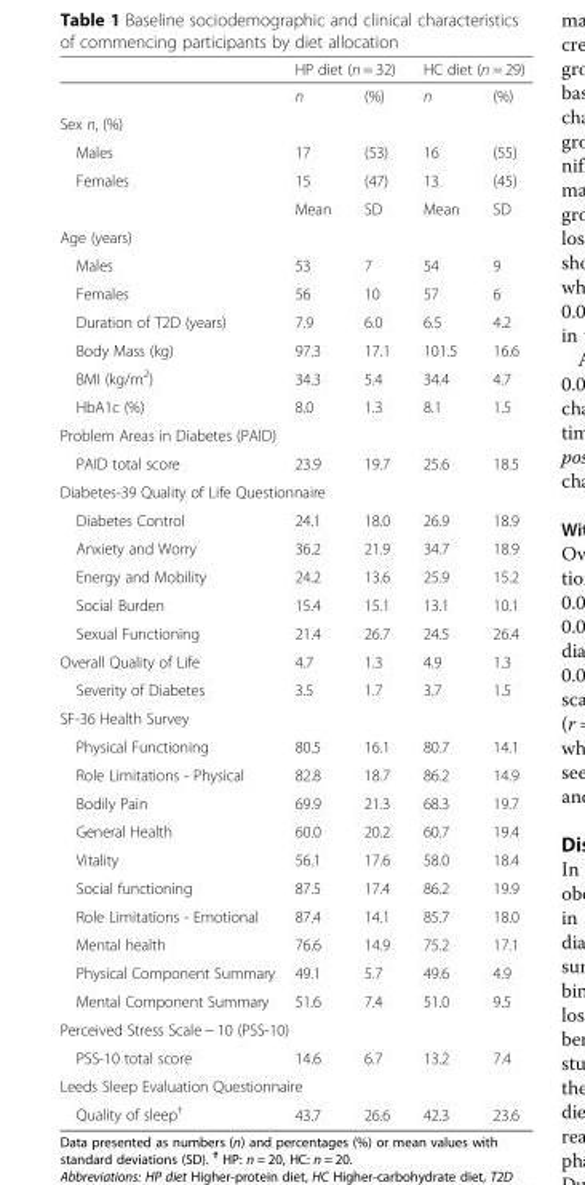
<table><thead><tr><td rowspan="2"></td><td colspan="2">HP diet (n = 32)</td><td colspan="2">HC diet (n = 29)</td></tr><tr><td>n</td><td>(%)</td><td>n</td><td>(%)</td></tr></thead><tbody><tr><td colspan="5">Sex n, (%)</td></tr><tr><td>Males</td><td>17</td><td>(53)</td><td>16</td><td>(55)</td></tr><tr><td rowspan="2">Females</td><td>15</td><td>(47)</td><td>13</td><td>(45)</td></tr><tr><td>Mean</td><td>SD</td><td>Mean</td><td>SD</td></tr><tr><td colspan="5">Age (years)</td></tr><tr><td>Males</td><td>53</td><td>7</td><td>54</td><td>9</td></tr><tr><td>Females</td><td>56</td><td>10</td><td>57</td><td>6</td></tr><tr><td>Duration of T2D (years)</td><td>7.9</td><td>6.0</td><td>6.5</td><td>4.2</td></tr><tr><td>Body Mass (kg)</td><td>97.3</td><td>17.1</td><td>101.5</td><td>16.6</td></tr><tr><td>BMI (kg/m<sup>2</sup>)</td><td>34.3</td><td>5.4</td><td>34.4</td><td>4.7</td></tr><tr><td>HbA1c (%)</td><td>8.0</td><td>1.3</td><td>8.1</td><td>1.5</td></tr><tr><td colspan="5">Problem Areas in Diabetes (PAID)</td></tr><tr><td>PAID total score</td><td>23.9</td><td>19.7</td><td>25.6</td><td>18.5</td></tr><tr><td colspan="5">Diabetes-39 Quality of Life Questionnaire</td></tr><tr><td>Diabetes Control</td><td>24.1</td><td>18.0</td><td>26.9</td><td>18.9</td></tr><tr><td>Anxiety and Worry</td><td>36.2</td><td>21.9</td><td>34.7</td><td>18.9</td></tr><tr><td>Energy and Mobility</td><td>24.2</td><td>13.6</td><td>25.9</td><td>15.2</td></tr><tr><td>Social Burden</td><td>15.4</td><td>15.1</td><td>13.1</td><td>10.1</td></tr><tr><td>Sexual Functioning</td><td>21.4</td><td>26.7</td><td>24.5</td><td>26.4</td></tr><tr><td>Overall Quality of Life</td><td>4.7</td><td>1.3</td><td>4.9</td><td>1.3</td></tr><tr><td>Severity of Diabetes</td><td>3.5</td><td>1.7</td><td>3.7</td><td>1.5</td></tr><tr><td colspan="5">SF-36 Health Survey</td></tr><tr><td>Physical Functioning</td><td>80.5</td><td>16.1</td><td>80.7</td><td>14.1</td></tr><tr><td>Role Limitations - Physical</td><td>82.8</td><td>18.7</td><td>86.2</td><td>14.9</td></tr><tr><td>Bodily Pain</td><td>69.9</td><td>21.3</td><td>68.3</td><td>19.7</td></tr><tr><td>General Health</td><td>60.0</td><td>20.2</td><td>60.7</td><td>19.4</td></tr><tr><td>Vitality</td><td>56.1</td><td>17.6</td><td>58.0</td><td>18.4</td></tr><tr><td>Social functioning</td><td>87.5</td><td>17.4</td><td>86.2</td><td>19.9</td></tr><tr><td>Role Limitations - Emotional</td><td>87.4</td><td>14.1</td><td>85.7</td><td>18.0</td></tr><tr><td>Mental health</td><td>76.6</td><td>14.9</td><td>75.2</td><td>17.1</td></tr><tr><td>Physical Component Summary</td><td>49.1</td><td>5.7</td><td>49.6</td><td>4.9</td></tr><tr><td>Mental Component Summary</td><td>51.6</td><td>7.4</td><td>51.0</td><td>9.5</td></tr><tr><td colspan="5">Perceived Stress Scale − 10 (PSS-10)</td></tr><tr><td>PSS-10 total score</td><td>14.6</td><td>6.7</td><td>13.2</td><td>7.4</td></tr><tr><td colspan="5">Leeds Sleep Evaluation Questionnaire</td></tr><tr><td>Quality of sleep<sup>†</sup></td><td>43.7</td><td>26.6</td><td>42.3</td><td>23.6</td></tr></tbody></table>